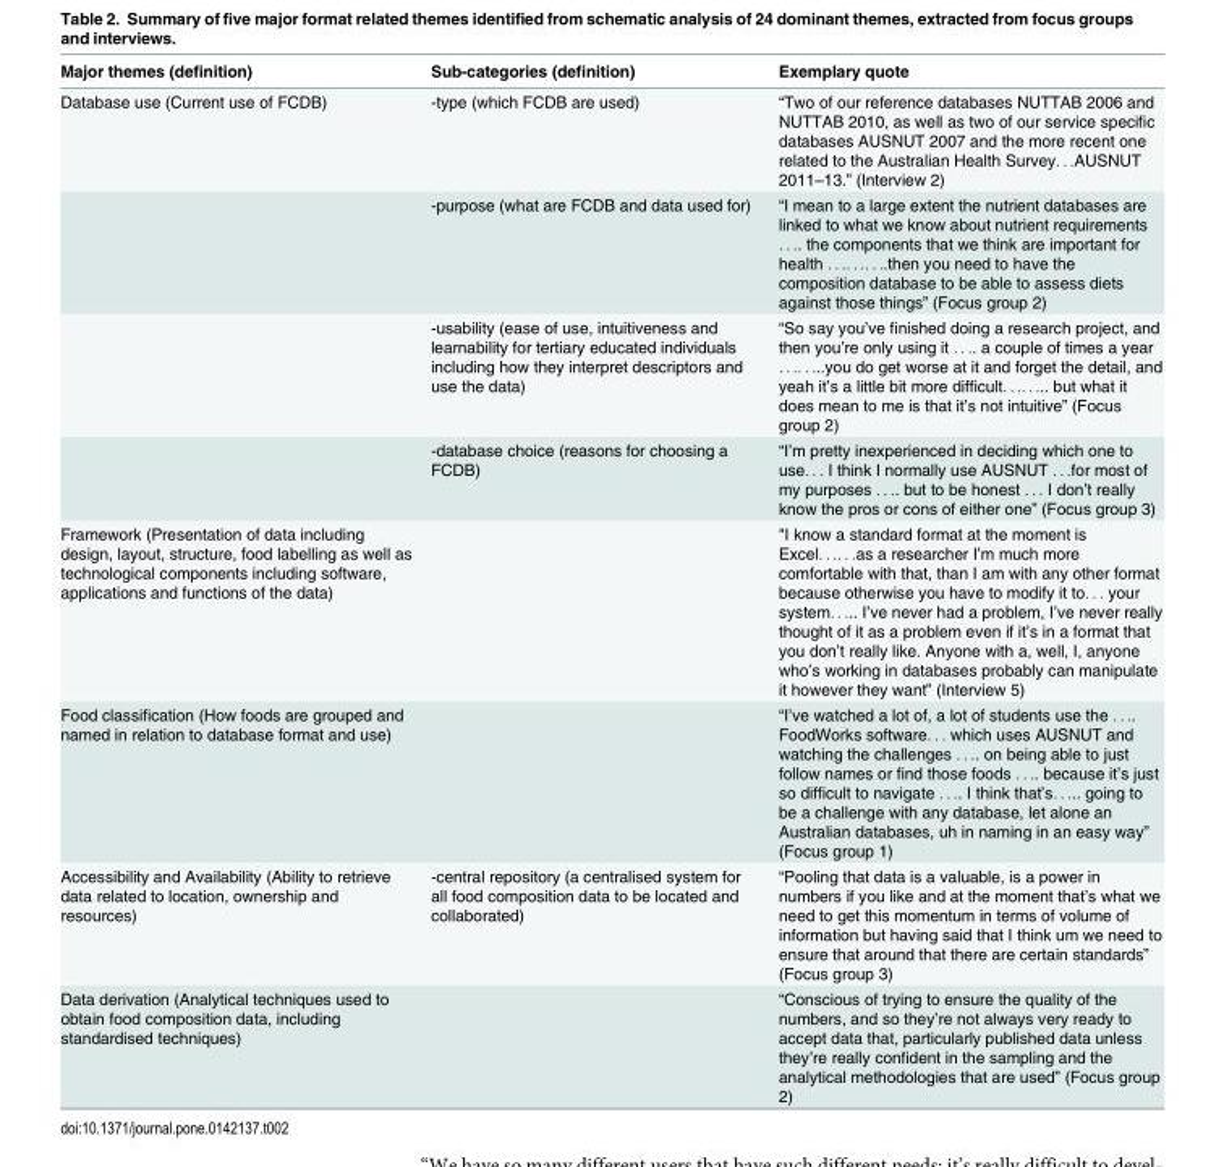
<table><thead><tr><td>Major themes (definition)</td><td>Sub-categories (definition)</td><td>Exemplary quote</td></tr></thead><tbody><tr><td rowspan="4">Database use (Current use of FCDB)</td><td>-type (which FCDB are used)</td><td>“Two of our reference databases NUTTAB 2006 and NUTTAB 2010, as well as two of our service specific databases AUSNUT 2007 and the more recent one related to the Australian Health Survey. . .AUSNUT 2011–13.” (Interview 2)</td></tr><tr><td>-purpose (what are FCDB and data used for)</td><td>“I mean to a large extent the nutrient databases are linked to what we know about nutrient requirements . . .. the components that we think are important for health . . .. . .. . ..then you need to have the composition database to be able to assess diets against those things” (Focus group 2)</td></tr><tr><td>-usability (ease of use, intuitiveness and learnability for tertiary educated individuals including how they interpret descriptors and use the data)</td><td>“So say you’ve finished doing a research project, and then you’re only using it . . .. a couple of times a year . . .. . ...you do get worse at it and forget the detail, and yeah it’s a little bit more difficult. . .. . ... but what it does mean to me is that it’s not intuitive” (Focus group 2)</td></tr><tr><td>-database choice (reasons for choosing a FCDB)</td><td>“I’m pretty inexperienced in deciding which one to use. . . I think I normally use AUSNUT . . .for most of my purposes . . .. but to be honest . . . I don’t really know the pros or cons of either one” (Focus group 3)</td></tr><tr><td>Framework (Presentation of data including design, layout, structure, food labelling as well as technological components including software, applications and functions of the data)</td><td></td><td>&quot;I know a standard format at the moment is Excel. . .. . .as a researcher I’m much more comfortable with that, than I am with any other format because otherwise you have to modify it to. . . your system. . ... I’ve never had a problem, I’ve never really thought of it as a problem even if it’s in a format that you don’t really like. Anyone with a, well, I, anyone who’s working in databases probably can manipulate it however they want” (Interview 5)</td></tr><tr><td>Food classification (How foods are grouped and named in relation to database format and use)</td><td></td><td>“I’ve watched a lot of, a lot of students use the . . .. FoodWorks software. . . which uses AUSNUT and watching the challenges . . .. on being able to just follow names or find those foods . . .. because it’s just so difficult to navigate . . .. I think that’s. . ... going to be a challenge with any database, let alone an Australian databases, uh in naming in an easy way” (Focus group 1)</td></tr><tr><td>Accessibility and Availability (Ability to retrieve data related to location, ownership and resources)</td><td>-central repository (a centralised system for all food composition data to be located and collaborated)</td><td>“Pooling that data is a valuable, is a power in numbers if you like and at the moment that’s what we need to get this momentum in terms of volume of information but having said that I think um we need to ensure that around that there are certain standards” (Focus group 3)</td></tr><tr><td>Data derivation (Analytical techniques used to obtain food composition data, including standardised techniques)</td><td></td><td>“Conscious of trying to ensure the quality of the numbers, and so they’re not always very ready to accept data that, particularly published data unless they’re really confident in the sampling and the analytical methodologies that are used” (Focus group 2)</td></tr></tbody></table>